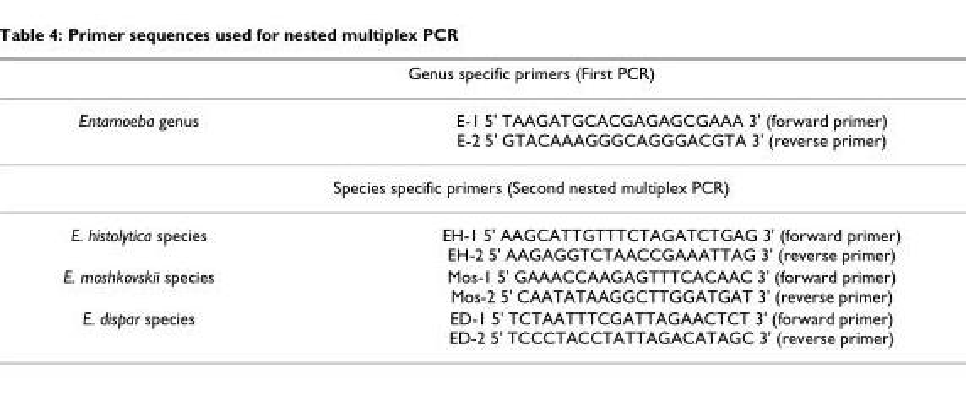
<table><thead><tr><td colspan="2">Genus specific primers (First PCR)</td></tr><tr><td>Entamoeba genus</td><td>E-1 5&#x27; TAAGATGCACGAGAGCGAAA 3&#x27; (forward primer) E-2 5&#x27; GTACAAAGGGCAGGGACGTA 3&#x27; (reverse primer)</td></tr></thead><tbody><tr><td colspan="2">Species specific primers (Second nested multiplex PCR)</td></tr><tr><td>E. histolytica species</td><td>EH-1 5&#x27; AAGCATTGTTTCTAGATCTGAG 3&#x27; (forward primer) EH-2 5&#x27; AAGAGGTCTAACCGAAATTAG 3&#x27; (reverse primer)</td></tr><tr><td>E. moshkovskii species</td><td>Mos-1 5&#x27; GAAACCAAGAGTTTCACAAC 3&#x27; (forward primer) Mos-2 5&#x27; CAATATAAGGCTTGGATGAT 3&#x27; (reverse primer)</td></tr><tr><td>E. dispar species</td><td>ED-1 5&#x27; TCTAATTTCGATTAGAACTCT 3&#x27; (forward primer) ED-2 5&#x27; TCCCTACCTATTAGACATAGC 3&#x27; (reverse primer)</td></tr></tbody></table>